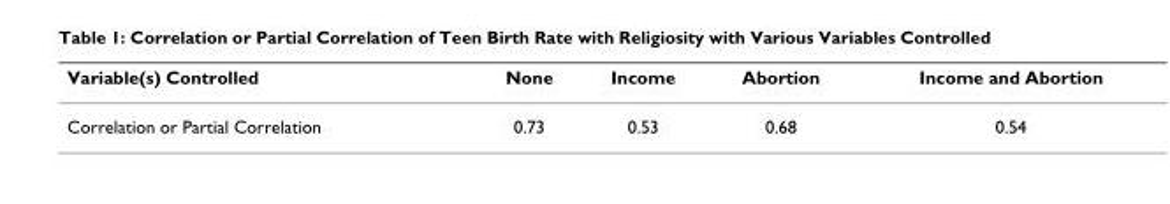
<table><thead><tr><td>Variable(s) Controlled</td><td>None</td><td>Income</td><td>Abortion</td><td>Income and Abortion</td></tr></thead><tbody><tr><td>Correlation or Partial Correlation</td><td>0.73</td><td>0.53</td><td>0.68</td><td>0.54</td></tr></tbody></table>